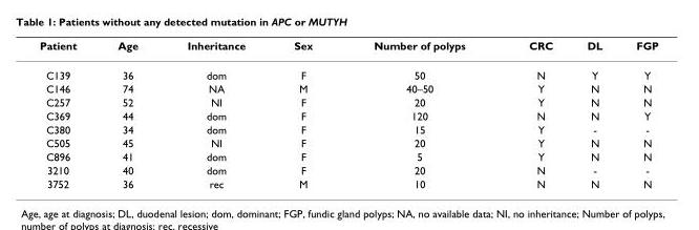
<table><thead><tr><td>Patient</td><td>Age</td><td>Inheritance</td><td>Sex</td><td>Number of polyps</td><td>CRC</td><td>DL</td><td>FGP</td></tr></thead><tbody><tr><td>C139</td><td>36</td><td>dom</td><td>F</td><td>50</td><td>N</td><td>Y</td><td>Y</td></tr><tr><td>C146</td><td>74</td><td>NA</td><td>M</td><td>40–50</td><td>Y</td><td>N</td><td>N</td></tr><tr><td>C257</td><td>52</td><td>NI</td><td>F</td><td>20</td><td>Y</td><td>N</td><td>N</td></tr><tr><td>C369</td><td>44</td><td>dom</td><td>F</td><td>120</td><td>N</td><td>N</td><td>Y</td></tr><tr><td>C380</td><td>34</td><td>dom</td><td>F</td><td>15</td><td>Y</td><td>-</td><td>-</td></tr><tr><td>C505</td><td>45</td><td>NI</td><td>F</td><td>20</td><td>Y</td><td>N</td><td>N</td></tr><tr><td>C896</td><td>41</td><td>dom</td><td>F</td><td>5</td><td>Y</td><td>N</td><td>N</td></tr><tr><td>3210</td><td>40</td><td>dom</td><td>F</td><td>20</td><td>N</td><td>-</td><td>-</td></tr><tr><td>3752</td><td>36</td><td>rec</td><td>M</td><td>10</td><td>N</td><td>N</td><td>N</td></tr></tbody></table>